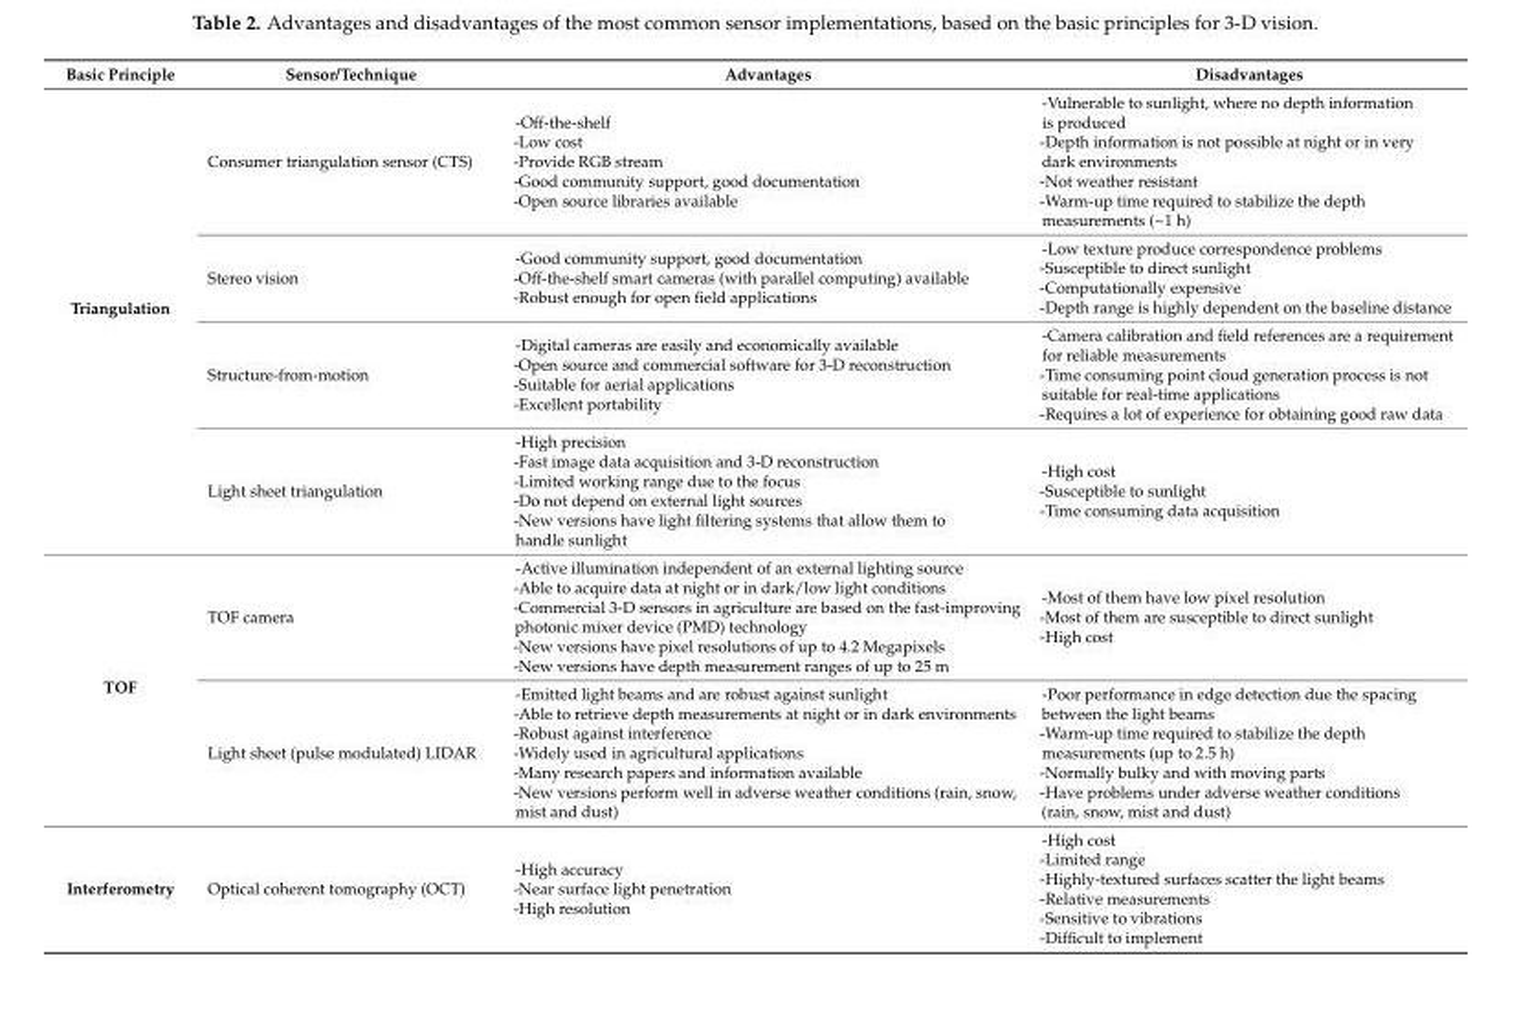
<table><thead><tr><td>Basic Principle</td><td>Sensor/Technique</td><td>Advantages</td><td>Disadvantages</td></tr></thead><tbody><tr><td rowspan="4">Triangulation</td><td>Consumer triangulation sensor (CTS)</td><td>-Off-the-shelf -Low cost -Provide RGB stream -Good community support, good documentation -Open source libraries available</td><td>-Vulnerable to sunlight, where no depth information is produced -Depth information is not possible at night or in very dark environments -Not weather resistant -Warm-up time required to stabilize the depth measurements (~1 h)</td></tr><tr><td>Stereo vision</td><td>-Good community support, good documentation -Off-the-shelf smart cameras (with parallel computing) available -Robust enough for open field applications</td><td>-Low texture produce correspondence problems -Susceptible to direct sunlight -Computationally expensive -Depth range is highly dependent on the baseline distance</td></tr><tr><td>Structure-from-motion</td><td>-Digital cameras are easily and economically available -Open source and commercial software for 3-D reconstruction -Suitable for aerial applications -Excellent portability</td><td>-Camera calibration and field references are a requirement for reliable measurements -Time consuming point cloud generation process is not suitable for real-time applications -Requires a lot of experience for obtaining good raw data</td></tr><tr><td>Light sheet triangulation</td><td>-High precision -Fast image data acquisition and 3-D reconstruction -Limited working range due to the focus -Do not depend on external light sources -New versions have light filtering systems that allow them to handle sunlight</td><td>-High cost -Susceptible to sunlight -Time consuming data acquisition</td></tr><tr><td rowspan="2">TOF</td><td>TOF camera</td><td>-Active illumination independent of an external lighting source -Able to acquire data at night or in dark/low light conditions -Commercial 3-D sensors in agriculture are based on the fast-improving photonic mixer device (PMD) technology -New versions have pixel resolutions of up to 4.2 Megapixels -New versions have depth measurement ranges of up to 25 m</td><td>-Most of them have low pixel resolution -Most of them are susceptible to direct sunlight -High cost</td></tr><tr><td>Light sheet (pulse modulated) LIDAR</td><td>-Emitted light beams and are robust against sunlight -Able to retrieve depth measurements at night or in dark environments -Robust against interference -Widely used in agricultural applications -Many research papers and information available -New versions perform well in adverse weather conditions (rain, snow, mist and dust)</td><td>-Poor performance in edge detection due the spacing between the light beams -Warm-up time required to stabilize the depth measurements (up to 2.5 h) -Normally bulky and with moving parts -Have problems under adverse weather conditions (rain, snow, mist and dust)</td></tr><tr><td>Interferometry</td><td>Optical coherent tomography (OCT)</td><td>-High accuracy -Near surface light penetration -High resolution</td><td>-High cost -Limited range -Highly-textured surfaces scatter the light beams -Relative measurements -Sensitive to vibrations -Difficult to implement</td></tr></tbody></table>